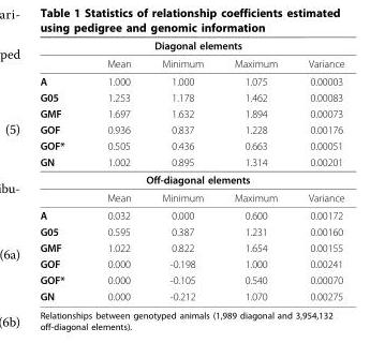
<table><thead><tr><td colspan="5">Diagonal elements</td></tr><tr><td></td><td>Mean</td><td>Minimum</td><td>Maximum</td><td>Variance</td></tr></thead><tbody><tr><td>A</td><td>1.000</td><td>1.000</td><td>1.075</td><td>0.00003</td></tr><tr><td>G05</td><td>1.253</td><td>1.178</td><td>1.462</td><td>0.00083</td></tr><tr><td>GMF</td><td>1.697</td><td>1.632</td><td>1.894</td><td>0.00073</td></tr><tr><td>GOF</td><td>0.936</td><td>0.837</td><td>1.228</td><td>0.00176</td></tr><tr><td>GOF*</td><td>0.505</td><td>0.436</td><td>0.663</td><td>0.00051</td></tr><tr><td>GN</td><td>1.002</td><td>0.895</td><td>1.314</td><td>0.00201</td></tr><tr><td colspan="5">Off-diagonal elements</td></tr><tr><td></td><td>Mean</td><td>Minimum</td><td>Maximum</td><td>Variance</td></tr><tr><td>A</td><td>0.032</td><td>0.000</td><td>0.600</td><td>0.00172</td></tr><tr><td>G05</td><td>0.595</td><td>0.387</td><td>1.231</td><td>0.00160</td></tr><tr><td>GMF</td><td>1.022</td><td>0.822</td><td>1.654</td><td>0.00155</td></tr><tr><td>GOF</td><td>0.000</td><td>-0.198</td><td>1.000</td><td>0.00241</td></tr><tr><td>GOF*</td><td>0.000</td><td>-0.105</td><td>0.540</td><td>0.00070</td></tr><tr><td>GN</td><td>0.000</td><td>-0.212</td><td>1.070</td><td>0.00275</td></tr></tbody></table>